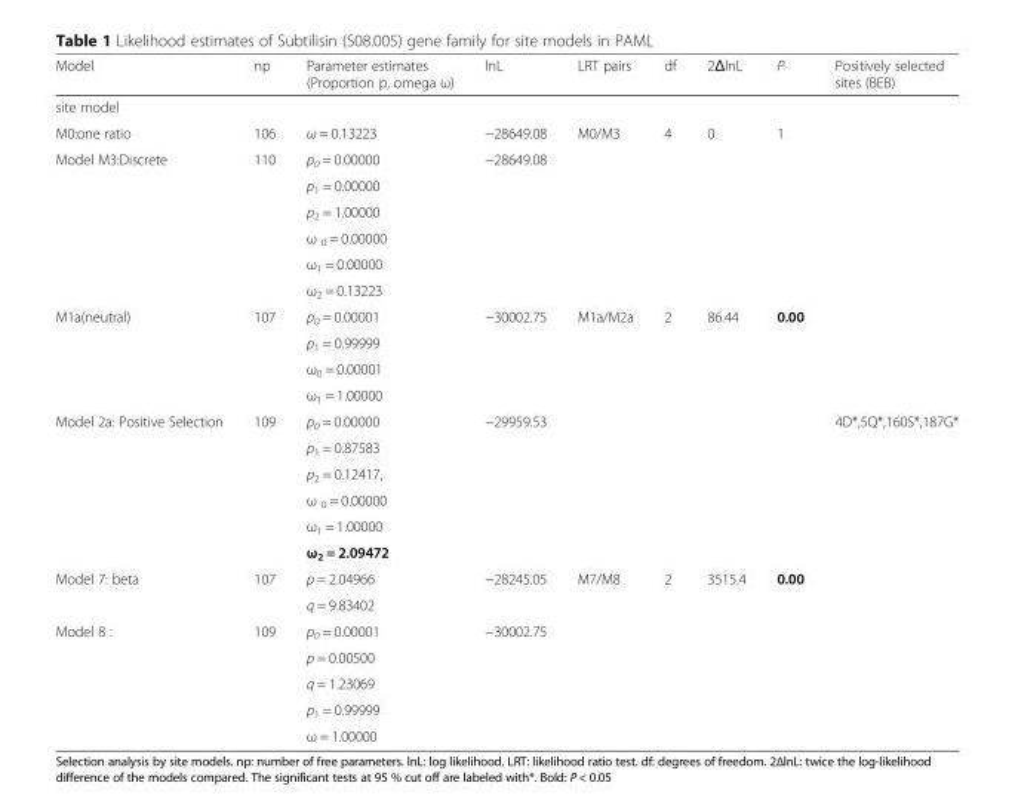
<table><thead><tr><td>Model</td><td>np</td><td>Parameter estimates (Proportion p, omega ω)</td><td>lnL</td><td>LRT pairs</td><td>df</td><td>2ΔlnL</td><td>P</td><td>Positively selected sites (BEB)</td></tr></thead><tbody><tr><td colspan="9">site model</td></tr><tr><td>M0:one ratio</td><td>106</td><td>ω = 0.13223</td><td>−28649.08</td><td>M0/M3</td><td>4</td><td>0</td><td>1</td><td></td></tr><tr><td rowspan="6">Model M3:Discrete</td><td rowspan="6">110</td><td>p<sub>0</sub> = 0.00000</td><td rowspan="6">−28649.08</td><td rowspan="6"></td><td rowspan="6"></td><td rowspan="6"></td><td rowspan="6"></td><td rowspan="6"></td></tr><tr><td>p<sub>1</sub> = 0.00000</td></tr><tr><td>p<sub>2</sub> = 1.00000</td></tr><tr><td>ω <sub>0</sub> = 0.00000</td></tr><tr><td>ω<sub>1</sub> = 0.00000</td></tr><tr><td>ω<sub>2</sub> = 0.13223</td></tr><tr><td rowspan="4">M1a(neutral)</td><td rowspan="4">107</td><td>p<sub>0</sub> = 0.00001</td><td rowspan="4">−30002.75</td><td rowspan="4">M1a/M2a</td><td rowspan="4">2</td><td rowspan="4">86.44</td><td rowspan="4">0.00</td><td rowspan="4"></td></tr><tr><td>p<sub>1</sub> = 0.99999</td></tr><tr><td>ω<sub>0</sub> = 0.00001</td></tr><tr><td>ω<sub>1</sub> = 1.00000</td></tr><tr><td rowspan="6">Model 2a: Positive Selection</td><td rowspan="6">109</td><td>p<sub>0</sub> = 0.00000</td><td rowspan="6">−29959.53</td><td rowspan="6"></td><td rowspan="6"></td><td rowspan="6"></td><td rowspan="6"></td><td rowspan="6">4D*,5Q*,160S*,187G*</td></tr><tr><td>p<sub>1</sub> = 0.87583</td></tr><tr><td>p<sub>2</sub> = 0.12417,</td></tr><tr><td>ω <sub>0</sub> = 0.00000</td></tr><tr><td>ω<sub>1</sub> = 1.00000</td></tr><tr><td>ω<sub>2</sub> = 2.09472</td></tr><tr><td rowspan="2">Model 7: beta</td><td rowspan="2">107</td><td>p = 2.04966</td><td rowspan="2">−28245.05</td><td rowspan="2">M7/M8</td><td rowspan="2">2</td><td rowspan="2">3515.4</td><td rowspan="2">0.00</td><td rowspan="2"></td></tr><tr><td>q = 9.83402</td></tr><tr><td rowspan="5">Model 8 :</td><td>109</td><td>p<sub>0</sub> = 0.00001</td><td rowspan="5">−30002.75</td><td rowspan="5"></td><td rowspan="5"></td><td rowspan="5"></td><td rowspan="5"></td><td rowspan="5"></td></tr><tr><td></td><td>p = 0.00500</td></tr><tr><td></td><td>q = 1.23069</td></tr><tr><td></td><td>p<sub>1</sub> = 0.99999</td></tr><tr><td></td><td>ω = 1.00000</td></tr></tbody></table>